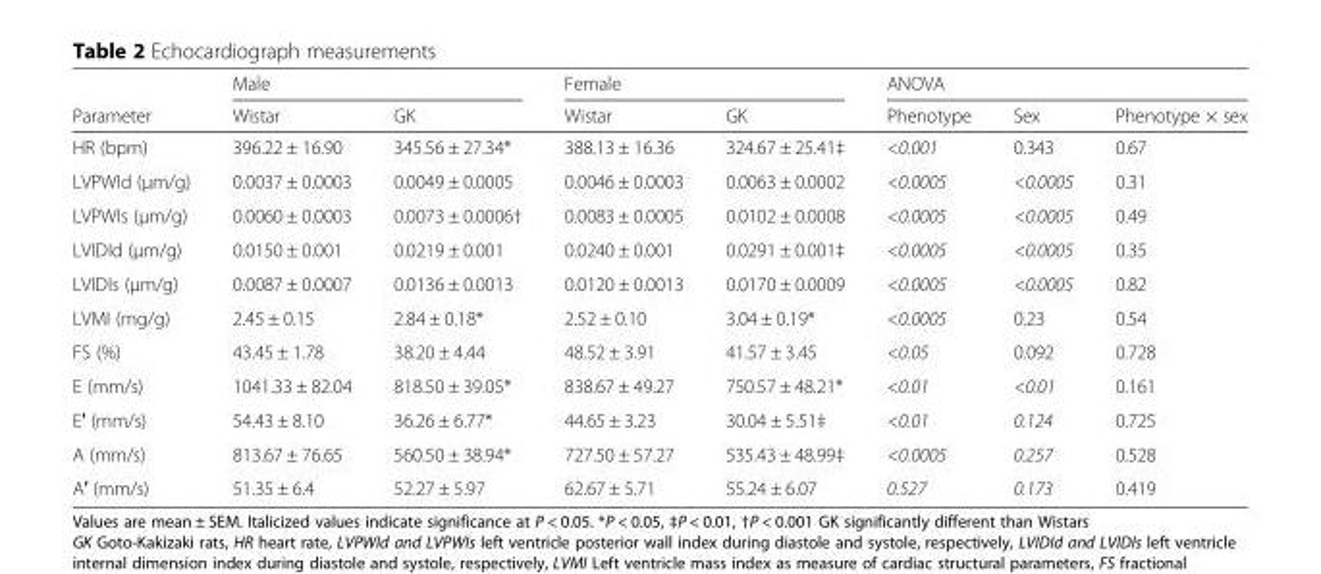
<table><thead><tr><td rowspan="2">Parameter</td><td colspan="2">Male</td><td colspan="2">Female</td><td colspan="3">ANOVA</td></tr><tr><td>Wistar</td><td>GK</td><td>Wistar</td><td>GK</td><td>Phenotype</td><td>Sex</td><td>Phenotype × sex</td></tr></thead><tbody><tr><td>HR (bpm)</td><td>396.22 ± 16.90</td><td>345.56 ± 27.34*</td><td>388.13 ± 16.36</td><td>324.67 ± 25.41‡</td><td>&lt;0.001</td><td>0.343</td><td>0.67</td></tr><tr><td>LVPWId (μm/g)</td><td>0.0037 ± 0.0003</td><td>0.0049 ± 0.0005</td><td>0.0046 ± 0.0003</td><td>0.0063 ± 0.0002</td><td>&lt;0.0005</td><td>&lt;0.0005</td><td>0.31</td></tr><tr><td>LVPWIs (μm/g)</td><td>0.0060 ± 0.0003</td><td>0.0073 ± 0.0006†</td><td>0.0083 ± 0.0005</td><td>0.0102 ± 0.0008</td><td>&lt;0.0005</td><td>&lt;0.0005</td><td>0.49</td></tr><tr><td>LVIDId (μm/g)</td><td>0.0150 ± 0.001</td><td>0.0219 ± 0.001</td><td>0.0240 ± 0.001</td><td>0.0291 ± 0.001‡</td><td>&lt;0.0005</td><td>&lt;0.0005</td><td>0.35</td></tr><tr><td>LVIDIs (μm/g)</td><td>0.0087 ± 0.0007</td><td>0.0136 ± 0.0013</td><td>0.0120 ± 0.0013</td><td>0.0170 ± 0.0009</td><td>&lt;0.0005</td><td>&lt;0.0005</td><td>0.82</td></tr><tr><td>LVMI (mg/g)</td><td>2.45 ± 0.15</td><td>2.84 ± 0.18*</td><td>2.52 ± 0.10</td><td>3.04 ± 0.19*</td><td>&lt;0.0005</td><td>0.23</td><td>0.54</td></tr><tr><td>FS (%)</td><td>43.45 ± 1.78</td><td>38.20 ± 4.44</td><td>48.52 ± 3.91</td><td>41.57 ± 3.45</td><td>&lt;0.05</td><td>0.092</td><td>0.728</td></tr><tr><td>E (mm/s)</td><td>1041.33 ± 82.04</td><td>818.50 ± 39.05*</td><td>838.67 ± 49.27</td><td>750.57 ± 48.21*</td><td>&lt;0.01</td><td>&lt;0.01</td><td>0.161</td></tr><tr><td>E′ (mm/s)</td><td>54.43 ± 8.10</td><td>36.26 ± 6.77*</td><td>44.65 ± 3.23</td><td>30.04 ± 5.51‡</td><td>&lt;0.01</td><td>0.124</td><td>0.725</td></tr><tr><td>A (mm/s)</td><td>813.67 ± 76.65</td><td>560.50 ± 38.94*</td><td>727.50 ± 57.27</td><td>535.43 ± 48.99‡</td><td>&lt;0.0005</td><td>0.257</td><td>0.528</td></tr><tr><td>A′ (mm/s)</td><td>51.35 ± 6.4</td><td>52.27 ± 5.97</td><td>62.67 ± 5.71</td><td>55.24 ± 6.07</td><td>0.527</td><td>0.173</td><td>0.419</td></tr></tbody></table>